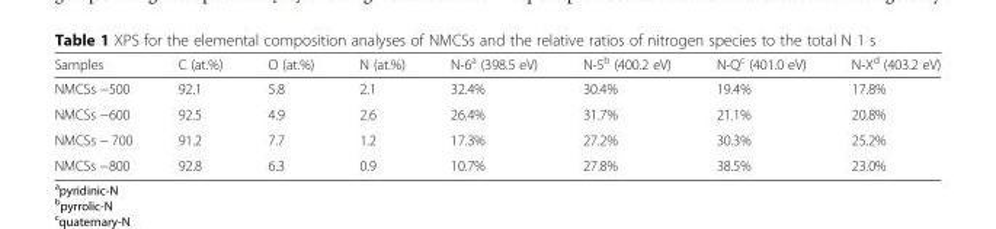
<table><thead><tr><td>Samples</td><td>C (at.%)</td><td>O (at.%)</td><td>N (at.%)</td><td>N-6<sup>a</sup> (398.5 eV)</td><td>N-5<sup>b</sup> (400.2 eV)</td><td>N-Q<sup>c</sup> (401.0 eV)</td><td>N-X<sup>d</sup> (403.2 eV)</td></tr></thead><tbody><tr><td>NMCSs −500</td><td>92.1</td><td>5.8</td><td>2.1</td><td>32.4%</td><td>30.4%</td><td>19.4%</td><td>17.8%</td></tr><tr><td>NMCSs −600</td><td>92.5</td><td>4.9</td><td>2.6</td><td>26.4%</td><td>31.7%</td><td>21.1%</td><td>20.8%</td></tr><tr><td>NMCSs − 700</td><td>91.2</td><td>7.7</td><td>1.2</td><td>17.3%</td><td>27.2%</td><td>30.3%</td><td>25.2%</td></tr><tr><td>NMCSs −800</td><td>92.8</td><td>6.3</td><td>0.9</td><td>10.7%</td><td>27.8%</td><td>38.5%</td><td>23.0%</td></tr></tbody></table>